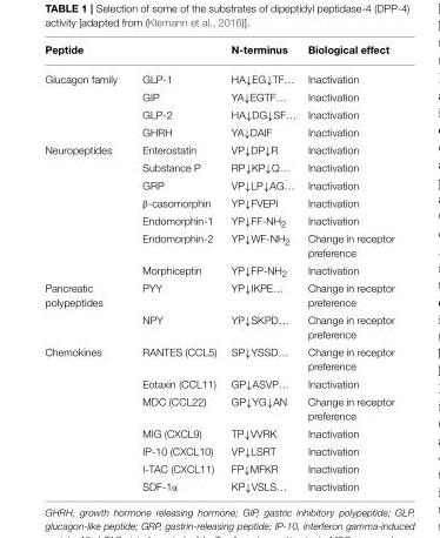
<table><thead><tr><td colspan="2">Peptide</td><td rowspan="2">N-terminus HA↓EG↓TF…</td><td rowspan="2">Biological effect Inactivation</td></tr><tr><td>Glucagon family</td><td>GLP-1</td></tr></thead><tbody><tr><td></td><td>GIP</td><td>YA↓EGTF…</td><td>Inactivation</td></tr><tr><td></td><td>GLP-2</td><td>HA↓DG↓SF…</td><td>Inactivation</td></tr><tr><td></td><td>GHRH</td><td>YA↓DAIF</td><td>Inactivation</td></tr><tr><td rowspan="7">Neuropeptides</td><td>Enterostatin</td><td>VP↓DP↓R</td><td>Inactivation</td></tr><tr><td>Substance P</td><td>RP↓KP↓Q…</td><td>Inactivation</td></tr><tr><td>GRP</td><td>VP↓LP↓AG…</td><td>Inactivation</td></tr><tr><td>β-casomorphin</td><td>YP↓FVEPI</td><td>Inactivation</td></tr><tr><td>Endomorphin-1</td><td>YP↓FF-NH<sub>2</sub></td><td>Inactivation</td></tr><tr><td>Endomorphin-2</td><td>YP↓WF-NH<sub>2</sub></td><td>Change in receptor preference</td></tr><tr><td>Morphiceptin</td><td>YP↓FP-NH<sub>2</sub></td><td>Inactivation</td></tr><tr><td rowspan="2">Pancreatic polypeptides</td><td>PYY</td><td>YP↓IKPE…</td><td>Change in receptor preference</td></tr><tr><td>NPY</td><td>YP↓SKPD…</td><td>Change in receptor preference</td></tr><tr><td rowspan="7">Chemokines</td><td>RANTES (CCL5)</td><td>SP↓YSSD…</td><td>Change in receptor preference</td></tr><tr><td>Eotaxin (CCL11)</td><td>GP↓ASVP…</td><td>Inactivation</td></tr><tr><td>MDC (CCL22)</td><td>GP↓YG↓AN</td><td>Change in receptor preference</td></tr><tr><td>MIG (CXCL9)</td><td>TP↓VVRK</td><td>Inactivation</td></tr><tr><td>IP-10 (CXCL10)</td><td>VP↓LSRT</td><td>Inactivation</td></tr><tr><td>I-TAC (CXCL11)</td><td>FP↓MFKR</td><td>Inactivation</td></tr><tr><td>SDF-1α</td><td>KP↓VSLS…</td><td>Inactivation</td></tr></tbody></table>